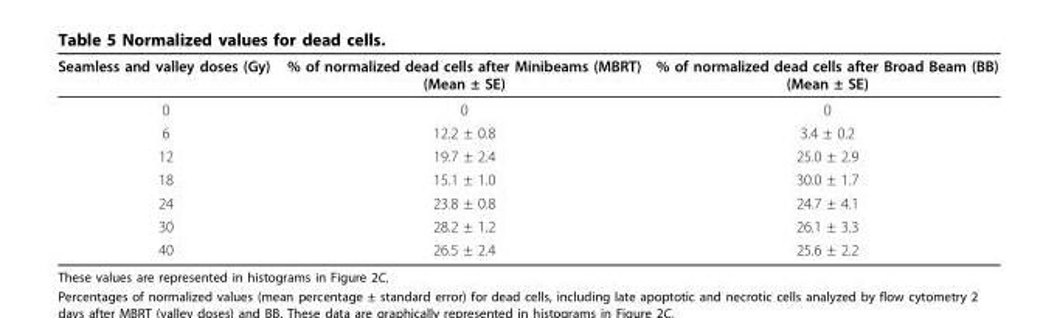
<table><thead><tr><td>Seamless and valley doses (Gy)</td><td>% of normalized dead cells after Minibeams (MBRT) (Mean ± SE)</td><td>% of normalized dead cells after Broad Beam (BB) (Mean ± SE)</td></tr></thead><tbody><tr><td>0</td><td>0</td><td>0</td></tr><tr><td>6</td><td>12.2 ± 0.8</td><td>3.4 ± 0.2</td></tr><tr><td>12</td><td>19.7 ± 2.4</td><td>25.0 ± 2.9</td></tr><tr><td>18</td><td>15.1 ± 1.0</td><td>30.0 ± 1.7</td></tr><tr><td>24</td><td>23.8 ± 0.8</td><td>24.7 ± 4.1</td></tr><tr><td>30</td><td>28.2 ± 1.2</td><td>26.1 ± 3.3</td></tr><tr><td>40</td><td>26.5 ± 2.4</td><td>25.6 ± 2.2</td></tr></tbody></table>